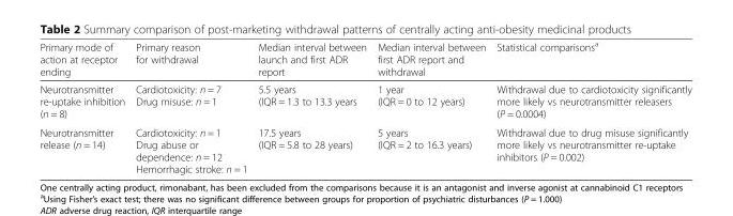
<table><thead><tr><td>Primary mode of action at receptor ending</td><td>Primary reason for withdrawal</td><td>Median interval between launch and first ADR report</td><td>Median interval between first ADR report and withdrawal</td><td>Statistical comparisons<sup>a</sup></td></tr></thead><tbody><tr><td>Neurotransmitter re-uptake inhibition (n = 8)</td><td>Cardiotoxicity: n = 7 Drug misuse: n = 1</td><td>5.5 years (IQR = 1.3 to 13.3 years</td><td>1 year (IQR = 0 to 12 years)</td><td>Withdrawal due to cardiotoxicity significantly more likely vs neurotransmitter releasers (P = 0.0004)</td></tr><tr><td>Neurotransmitter release (n = 14)</td><td>Cardiotoxicity: n = 1 Drug abuse or dependence: n = 12 Hemorrhagic stroke: n = 1</td><td>17.5 years (IQR = 5.8 to 28 years)</td><td>5 years (IQR = 2 to 16.3 years)</td><td>Withdrawal due to drug misuse significantly more likely vs neurotransmitter re-uptake inhibitors (P = 0.002)</td></tr></tbody></table>